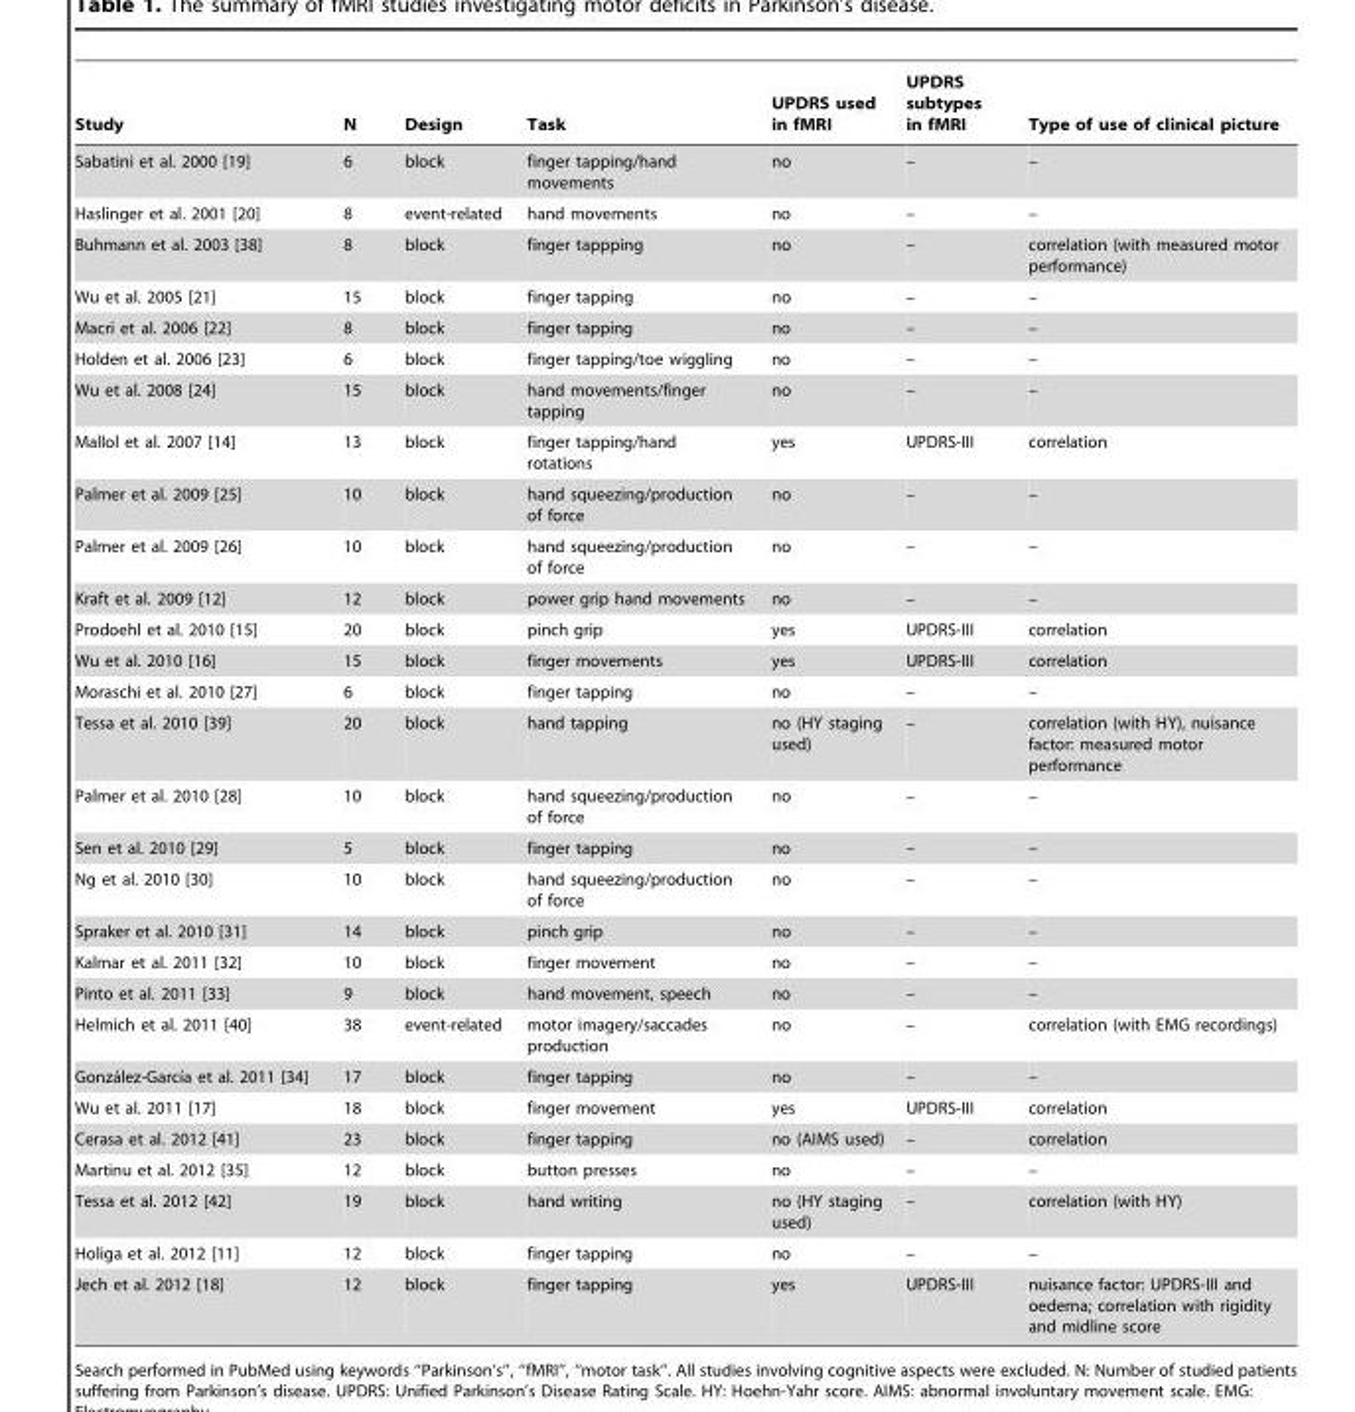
<table><thead><tr><td>Study</td><td>N</td><td>Design</td><td>Task</td><td>UPDRS used in fMRI</td><td>UPDRS subtypes in fMRI</td><td>Type of use of clinical picture</td></tr></thead><tbody><tr><td>Sabatini et al. 2000 [19]</td><td>6</td><td>block</td><td>finger tapping/hand movements</td><td>no</td><td>–</td><td>–</td></tr><tr><td>Haslinger et al. 2001 [20]</td><td>8</td><td>event-related</td><td>hand movements</td><td>no</td><td>–</td><td>–</td></tr><tr><td>Buhmann et al. 2003 [38]</td><td>8</td><td>block</td><td>finger tappping</td><td>no</td><td>–</td><td>correlation (with measured motor performance)</td></tr><tr><td>Wu et al. 2005 [21]</td><td>15</td><td>block</td><td>finger tapping</td><td>no</td><td>–</td><td>–</td></tr><tr><td>Macri et al. 2006 [22]</td><td>8</td><td>block</td><td>finger tapping</td><td>no</td><td>–</td><td>–</td></tr><tr><td>Holden et al. 2006 [23]</td><td>6</td><td>block</td><td>finger tapping/toe wiggling</td><td>no</td><td>–</td><td>–</td></tr><tr><td>Wu et al. 2008 [24]</td><td>15</td><td>block</td><td>hand movements/finger tapping</td><td>no</td><td>–</td><td>–</td></tr><tr><td>Mallol et al. 2007 [14]</td><td>13</td><td>block</td><td>finger tapping/hand rotations</td><td>yes</td><td>UPDRS-III</td><td>correlation</td></tr><tr><td>Palmer et al. 2009 [25]</td><td>10</td><td>block</td><td>hand squeezing/production of force</td><td>no</td><td>–</td><td>–</td></tr><tr><td>Palmer et al. 2009 [26]</td><td>10</td><td>block</td><td>hand squeezing/production of force</td><td>no</td><td>–</td><td>–</td></tr><tr><td>Kraft et al. 2009 [12]</td><td>12</td><td>block</td><td>power grip hand movements</td><td>no</td><td>–</td><td>–</td></tr><tr><td>Prodoehl et al. 2010 [15]</td><td>20</td><td>block</td><td>pinch grip</td><td>yes</td><td>UPDRS-III</td><td>correlation</td></tr><tr><td>Wu et al. 2010 [16]</td><td>15</td><td>block</td><td>finger movements</td><td>yes</td><td>UPDRS-III</td><td>correlation</td></tr><tr><td>Moraschi et al. 2010 [27]</td><td>6</td><td>block</td><td>finger tapping</td><td>no</td><td>–</td><td>–</td></tr><tr><td>Tessa et al. 2010 [39]</td><td>20</td><td>block</td><td>hand tapping</td><td>no (HY staging used)</td><td>–</td><td>correlation (with HY), nuisance factor: measured motor performance</td></tr><tr><td>Palmer et al. 2010 [28]</td><td>10</td><td>block</td><td>hand squeezing/production of force</td><td>no</td><td>–</td><td>–</td></tr><tr><td>Sen et al. 2010 [29]</td><td>5</td><td>block</td><td>finger tapping</td><td>no</td><td>–</td><td>–</td></tr><tr><td>Ng et al. 2010 [30]</td><td>10</td><td>block</td><td>hand squeezing/production of force</td><td>no</td><td>–</td><td>–</td></tr><tr><td>Spraker et al. 2010 [31]</td><td>14</td><td>block</td><td>pinch grip</td><td>no</td><td>–</td><td>–</td></tr><tr><td>Kalmar et al. 2011 [32]</td><td>10</td><td>block</td><td>finger movement</td><td>no</td><td>–</td><td>–</td></tr><tr><td>Pinto et al. 2011 [33]</td><td>9</td><td>block</td><td>hand movement, speech</td><td>no</td><td>–</td><td>–</td></tr><tr><td>Helmich et al. 2011 [40]</td><td>38</td><td>event-related</td><td>motor imagery/saccades production</td><td>no</td><td>–</td><td>correlation (with EMG recordings)</td></tr><tr><td>Gonza´lez-Garcı´a et al. 2011 [34]</td><td>17</td><td>block</td><td>finger tapping</td><td>no</td><td>–</td><td>–</td></tr><tr><td>Wu et al. 2011 [17]</td><td>18</td><td>block</td><td>finger movement</td><td>yes</td><td>UPDRS-III</td><td>correlation</td></tr><tr><td>Cerasa et al. 2012 [41]</td><td>23</td><td>block</td><td>finger tapping</td><td>no (AIMS used)</td><td>–</td><td>correlation</td></tr><tr><td>Martinu et al. 2012 [35]</td><td>12</td><td>block</td><td>button presses</td><td>no</td><td>–</td><td>–</td></tr><tr><td>Tessa et al. 2012 [42]</td><td>19</td><td>block</td><td>hand writing</td><td>no (HY staging used)</td><td>–</td><td>correlation (with HY)</td></tr><tr><td>Holiga et al. 2012 [11]</td><td>12</td><td>block</td><td>finger tapping</td><td>no</td><td>–</td><td>–</td></tr><tr><td>Jech et al. 2012 [18]</td><td>12</td><td>block</td><td>finger tapping</td><td>yes</td><td>UPDRS-III</td><td>nuisance factor: UPDRS-III and oedema; correlation with rigidity and midline score</td></tr></tbody></table>